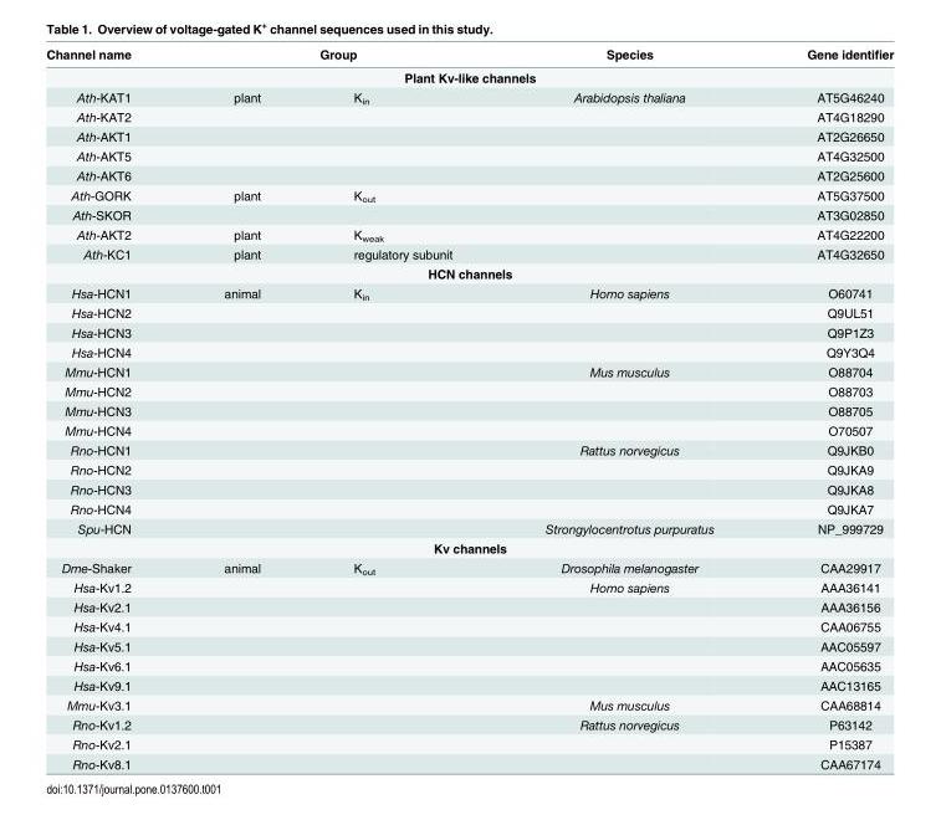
<table><thead><tr><td>Channel name</td><td colspan="2">Group</td><td>Species</td><td>Gene identifier</td></tr><tr><td colspan="5">Plant Kv-like channels</td></tr><tr><td>Ath-KAT1</td><td>plant</td><td>K<sub>in</sub></td><td>Arabidopsis thaliana</td><td>AT5G46240</td></tr></thead><tbody><tr><td>Ath-KAT2</td><td></td><td></td><td></td><td>AT4G18290</td></tr><tr><td>Ath-AKT1</td><td></td><td></td><td></td><td>AT2G26650</td></tr><tr><td>Ath-AKT5</td><td></td><td></td><td></td><td>AT4G32500</td></tr><tr><td>Ath-AKT6</td><td></td><td></td><td></td><td>AT2G25600</td></tr><tr><td>Ath-GORK</td><td>plant</td><td>K<sub>out</sub></td><td></td><td>AT5G37500</td></tr><tr><td>Ath-SKOR</td><td></td><td></td><td></td><td>AT3G02850</td></tr><tr><td>Ath-AKT2</td><td>plant</td><td>K<sub>weak</sub></td><td></td><td>AT4G22200</td></tr><tr><td>Ath-KC1</td><td>plant</td><td>regulatory subunit</td><td></td><td>AT4G32650</td></tr><tr><td colspan="5">HCN channels</td></tr><tr><td>Hsa-HCN1</td><td>animal</td><td>K<sub>in</sub></td><td>Homo sapiens</td><td>O60741</td></tr><tr><td>Hsa-HCN2</td><td></td><td></td><td></td><td>Q9UL51</td></tr><tr><td>Hsa-HCN3</td><td></td><td></td><td></td><td>Q9P1Z3</td></tr><tr><td>Hsa-HCN4</td><td></td><td></td><td></td><td>Q9Y3Q4</td></tr><tr><td>Mmu-HCN1</td><td></td><td></td><td>Mus musculus</td><td>O88704</td></tr><tr><td>Mmu-HCN2</td><td></td><td></td><td></td><td>O88703</td></tr><tr><td>Mmu-HCN3</td><td></td><td></td><td></td><td>O88705</td></tr><tr><td>Mmu-HCN4</td><td></td><td></td><td></td><td>O70507</td></tr><tr><td>Rno-HCN1</td><td></td><td></td><td>Rattus norvegicus</td><td>Q9JKB0</td></tr><tr><td>Rno-HCN2</td><td></td><td></td><td></td><td>Q9JKA9</td></tr><tr><td>Rno-HCN3</td><td></td><td></td><td></td><td>Q9JKA8</td></tr><tr><td>Rno-HCN4</td><td></td><td></td><td></td><td>Q9JKA7</td></tr><tr><td>Spu-HCN</td><td></td><td></td><td>Strongylocentrotus purpuratus</td><td>NP_999729</td></tr><tr><td colspan="5">Kv channels</td></tr><tr><td>Dme-Shaker</td><td>animal</td><td>K<sub>out</sub></td><td>Drosophila melanogaster</td><td>CAA29917</td></tr><tr><td>Hsa-Kv1.2</td><td></td><td></td><td>Homo sapiens</td><td>AAA36141</td></tr><tr><td>Hsa-Kv2.1</td><td></td><td></td><td></td><td>AAA36156</td></tr><tr><td>Hsa-Kv4.1</td><td></td><td></td><td></td><td>CAA06755</td></tr><tr><td>Hsa-Kv5.1</td><td></td><td></td><td></td><td>AAC05597</td></tr><tr><td>Hsa-Kv6.1</td><td></td><td></td><td></td><td>AAC05635</td></tr><tr><td>Hsa-Kv9.1</td><td></td><td></td><td></td><td>AAC13165</td></tr><tr><td>Mmu-Kv3.1</td><td></td><td></td><td>Mus musculus</td><td>CAA68814</td></tr><tr><td>Rno-Kv1.2</td><td></td><td></td><td>Rattus norvegicus</td><td>P63142</td></tr><tr><td>Rno-Kv2.1</td><td></td><td></td><td></td><td>P15387</td></tr><tr><td>Rno-Kv8.1</td><td></td><td></td><td></td><td>CAA67174</td></tr></tbody></table>